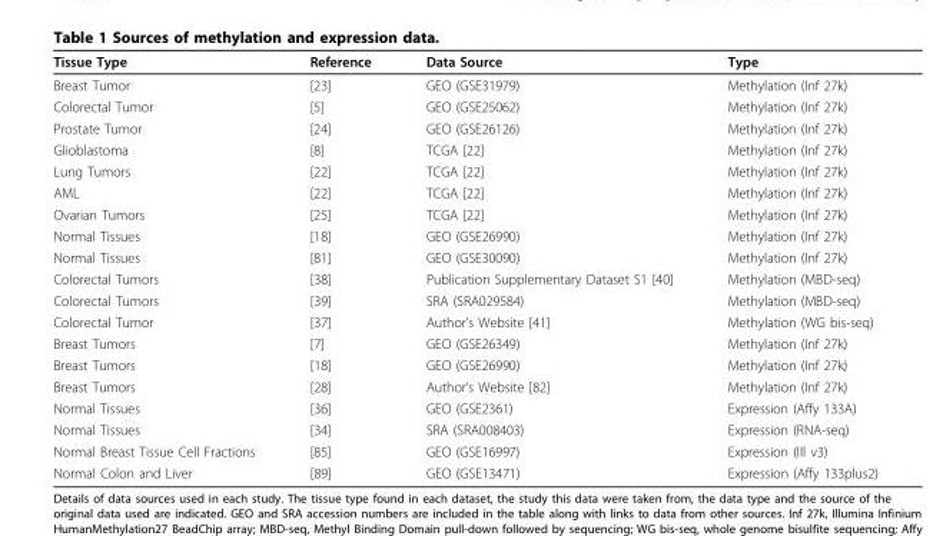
<table><thead><tr><td>Tissue Type</td><td>Reference</td><td>Data Source</td><td>Type</td></tr></thead><tbody><tr><td>Breast Tumor</td><td>[23]</td><td>GEO (GSE31979)</td><td>Methylation (Inf 27k)</td></tr><tr><td>Colorectal Tumor</td><td>[5]</td><td>GEO (GSE25062)</td><td>Methylation (Inf 27k)</td></tr><tr><td>Prostate Tumor</td><td>[24]</td><td>GEO (GSE26126)</td><td>Methylation (Inf 27k)</td></tr><tr><td>Glioblastoma</td><td>[8]</td><td>TCGA [22]</td><td>Methylation (Inf 27k)</td></tr><tr><td>Lung Tumors</td><td>[22]</td><td>TCGA [22]</td><td>Methylation (Inf 27k)</td></tr><tr><td>AML</td><td>[22]</td><td>TCGA [22]</td><td>Methylation (Inf 27k)</td></tr><tr><td>Ovarian Tumors</td><td>[25]</td><td>TCGA [22]</td><td>Methylation (Inf 27k)</td></tr><tr><td>Normal Tissues</td><td>[18]</td><td>GEO (GSE26990)</td><td>Methylation (Inf 27k)</td></tr><tr><td>Normal Tissues</td><td>[81]</td><td>GEO (GSE30090)</td><td>Methylation (Inf 27k)</td></tr><tr><td>Colorectal Tumors</td><td>[38]</td><td>Publication Supplementary Dataset S1 [40]</td><td>Methylation (MBD-seq)</td></tr><tr><td>Colorectal Tumors</td><td>[39]</td><td>SRA (SRA029584)</td><td>Methylation (MBD-seq)</td></tr><tr><td>Colorectal Tumor</td><td>[37]</td><td>Author’s Website [41]</td><td>Methylation (WG bis-seq)</td></tr><tr><td>Breast Tumors</td><td>[7]</td><td>GEO (GSE26349)</td><td>Methylation (Inf 27k)</td></tr><tr><td>Breast Tumors</td><td>[18]</td><td>GEO (GSE26990)</td><td>Methylation (Inf 27k)</td></tr><tr><td>Breast Tumors</td><td>[28]</td><td>Author’s Website [82]</td><td>Methylation (Inf 27k)</td></tr><tr><td>Normal Tissues</td><td>[36]</td><td>GEO (GSE2361)</td><td>Expression (Affy 133A)</td></tr><tr><td>Normal Tissues</td><td>[34]</td><td>SRA (SRA008403)</td><td>Expression (RNA-seq)</td></tr><tr><td>Normal Breast Tissue Cell Fractions</td><td>[85]</td><td>GEO (GSE16997)</td><td>Expression (Ill v3)</td></tr><tr><td>Normal Colon and Liver</td><td>[89]</td><td>GEO (GSE13471)</td><td>Expression (Affy 133plus2)</td></tr></tbody></table>